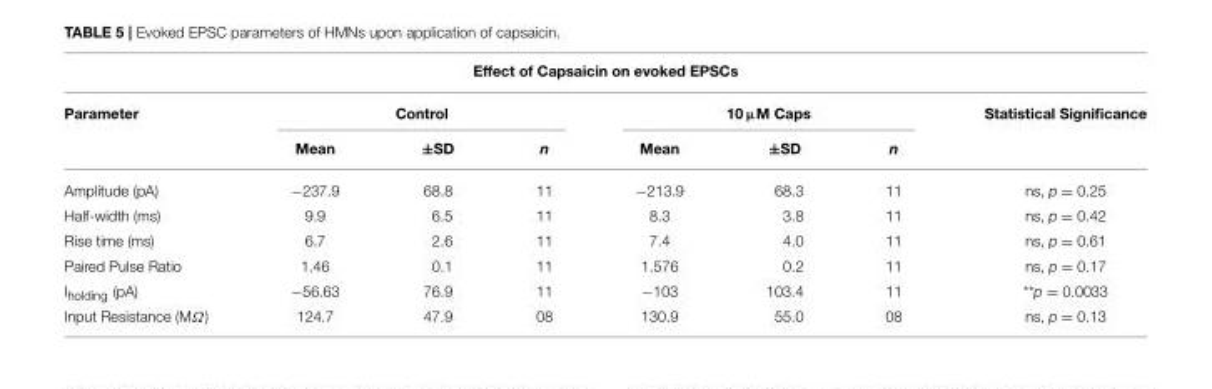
<table><thead><tr><td colspan="8">Effect of Capsaicin on evoked EPSCs</td></tr><tr><td rowspan="2">Parameter</td><td colspan="3">Control</td><td colspan="3">10 µM Caps</td><td rowspan="2">Statistical Significance</td></tr><tr><td>Mean</td><td>±SD</td><td>n</td><td>Mean</td><td>±SD</td><td>n</td></tr></thead><tbody><tr><td>Amplitude (pA)</td><td>−237.9</td><td>68.8</td><td>11</td><td>−213.9</td><td>68.3</td><td>11</td><td>ns, p = 0.25</td></tr><tr><td>Half-width (ms)</td><td>9.9</td><td>6.5</td><td>11</td><td>8.3</td><td>3.8</td><td>11</td><td>ns, p = 0.42</td></tr><tr><td>Rise time (ms)</td><td>6.7</td><td>2.6</td><td>11</td><td>7.4</td><td>4.0</td><td>11</td><td>ns, p = 0.61</td></tr><tr><td>Paired Pulse Ratio</td><td>1.46</td><td>0.1</td><td>11</td><td>1.576</td><td>0.2</td><td>11</td><td>ns, p = 0.17</td></tr><tr><td>I<sub>holding</sub> (pA)</td><td>−56.63</td><td>76.9</td><td>11</td><td>−103</td><td>103.4</td><td>11</td><td>**p = 0.0033</td></tr><tr><td>Input Resistance (MΩ)</td><td>124.7</td><td>47.9</td><td>08</td><td>130.9</td><td>55.0</td><td>08</td><td>ns, p = 0.13</td></tr></tbody></table>